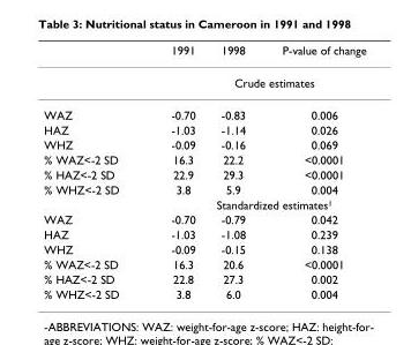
<table><thead><tr><td></td><td>1991</td><td>1998</td><td>P-value of change</td></tr></thead><tbody><tr><td></td><td colspan="3">Crude estimates</td></tr><tr><td>WAZ</td><td>-0.70</td><td>-0.83</td><td>0.006</td></tr><tr><td>HAZ</td><td>-1.03</td><td>-1.14</td><td>0.026</td></tr><tr><td>WHZ</td><td>-0.09</td><td>-0.16</td><td>0.069</td></tr><tr><td>% WAZ&lt;-2 SD</td><td>16.3</td><td>22.2</td><td>&lt;0.0001</td></tr><tr><td>% HAZ&lt;-2 SD</td><td>22.9</td><td>29.3</td><td>&lt;0.0001</td></tr><tr><td rowspan="2">% WHZ&lt;-2 SD</td><td>3.8</td><td>5.9</td><td>0.004</td></tr><tr><td colspan="3">Standardized estimates1</td></tr><tr><td>WAZ</td><td>-0.70</td><td>-0.79</td><td>0.042</td></tr><tr><td>HAZ</td><td>-1.03</td><td>-1.08</td><td>0.239</td></tr><tr><td>WHZ</td><td>-0.09</td><td>-0.15</td><td>0.138</td></tr><tr><td>% WAZ&lt;-2 SD</td><td>16.3</td><td>20.6</td><td>&lt;0.0001</td></tr><tr><td>% HAZ&lt;-2 SD</td><td>22.8</td><td>27.3</td><td>0.002</td></tr><tr><td>% WHZ&lt;-2 SD</td><td>3.8</td><td>6.0</td><td>0.004</td></tr></tbody></table>